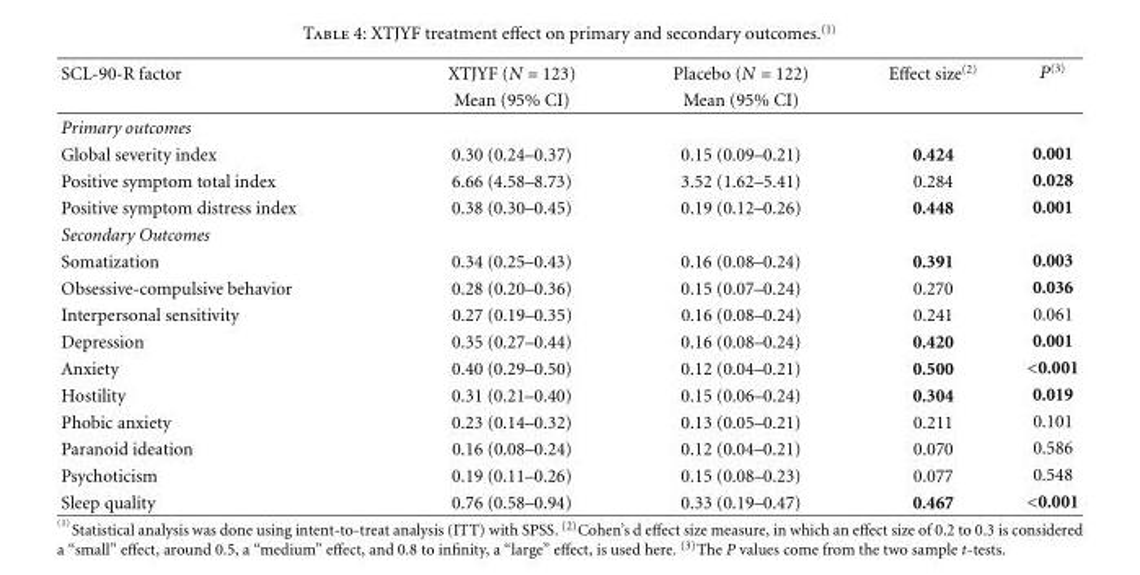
<table><thead><tr><td rowspan="2">SCL-90-R factor</td><td rowspan="2">XTJYF (N = 123) Mean (95% CI)</td><td rowspan="2">Placebo (N = 122) Mean (95% CI)</td><td rowspan="2">Effect size<sup>(2)</sup></td><td rowspan="2">P<sup>(3)</sup></td></tr><tr></tr></thead><tbody><tr><td colspan="5">Primary outcomes</td></tr><tr><td>Global severity index</td><td>0.30 (0.24–0.37)</td><td>0.15 (0.09–0.21)</td><td>0.424</td><td>0.001</td></tr><tr><td>Positive symptom total index</td><td>6.66 (4.58–8.73)</td><td>3.52 (1.62–5.41)</td><td>0.284</td><td>0.028</td></tr><tr><td>Positive symptom distress index</td><td>0.38 (0.30–0.45)</td><td>0.19 (0.12–0.26)</td><td>0.448</td><td>0.001</td></tr><tr><td colspan="5">Secondary Outcomes</td></tr><tr><td>Somatization</td><td>0.34 (0.25–0.43)</td><td>0.16 (0.08–0.24)</td><td>0.391</td><td>0.003</td></tr><tr><td>Obsessive-compulsive behavior</td><td>0.28 (0.20–0.36)</td><td>0.15 (0.07–0.24)</td><td>0.270</td><td>0.036</td></tr><tr><td>Interpersonal sensitivity</td><td>0.27 (0.19–0.35)</td><td>0.16 (0.08–0.24)</td><td>0.241</td><td>0.061</td></tr><tr><td>Depression</td><td>0.35 (0.27–0.44)</td><td>0.16 (0.08–0.24)</td><td>0.420</td><td>0.001</td></tr><tr><td>Anxiety</td><td>0.40 (0.29–0.50)</td><td>0.12 (0.04–0.21)</td><td>0.500</td><td>&lt;0.001</td></tr><tr><td>Hostility</td><td>0.31 (0.21–0.40)</td><td>0.15 (0.06–0.24)</td><td>0.304</td><td>0.019</td></tr><tr><td>Phobic anxiety</td><td>0.23 (0.14–0.32)</td><td>0.13 (0.05–0.21)</td><td>0.211</td><td>0.101</td></tr><tr><td>Paranoid ideation</td><td>0.16 (0.08–0.24)</td><td>0.12 (0.04–0.21)</td><td>0.070</td><td>0.586</td></tr><tr><td>Psychoticism</td><td>0.19 (0.11–0.26)</td><td>0.15 (0.08–0.23)</td><td>0.077</td><td>0.548</td></tr><tr><td>Sleep quality</td><td>0.76 (0.58–0.94)</td><td>0.33 (0.19–0.47)</td><td>0.467</td><td>&lt;0.001</td></tr></tbody></table>